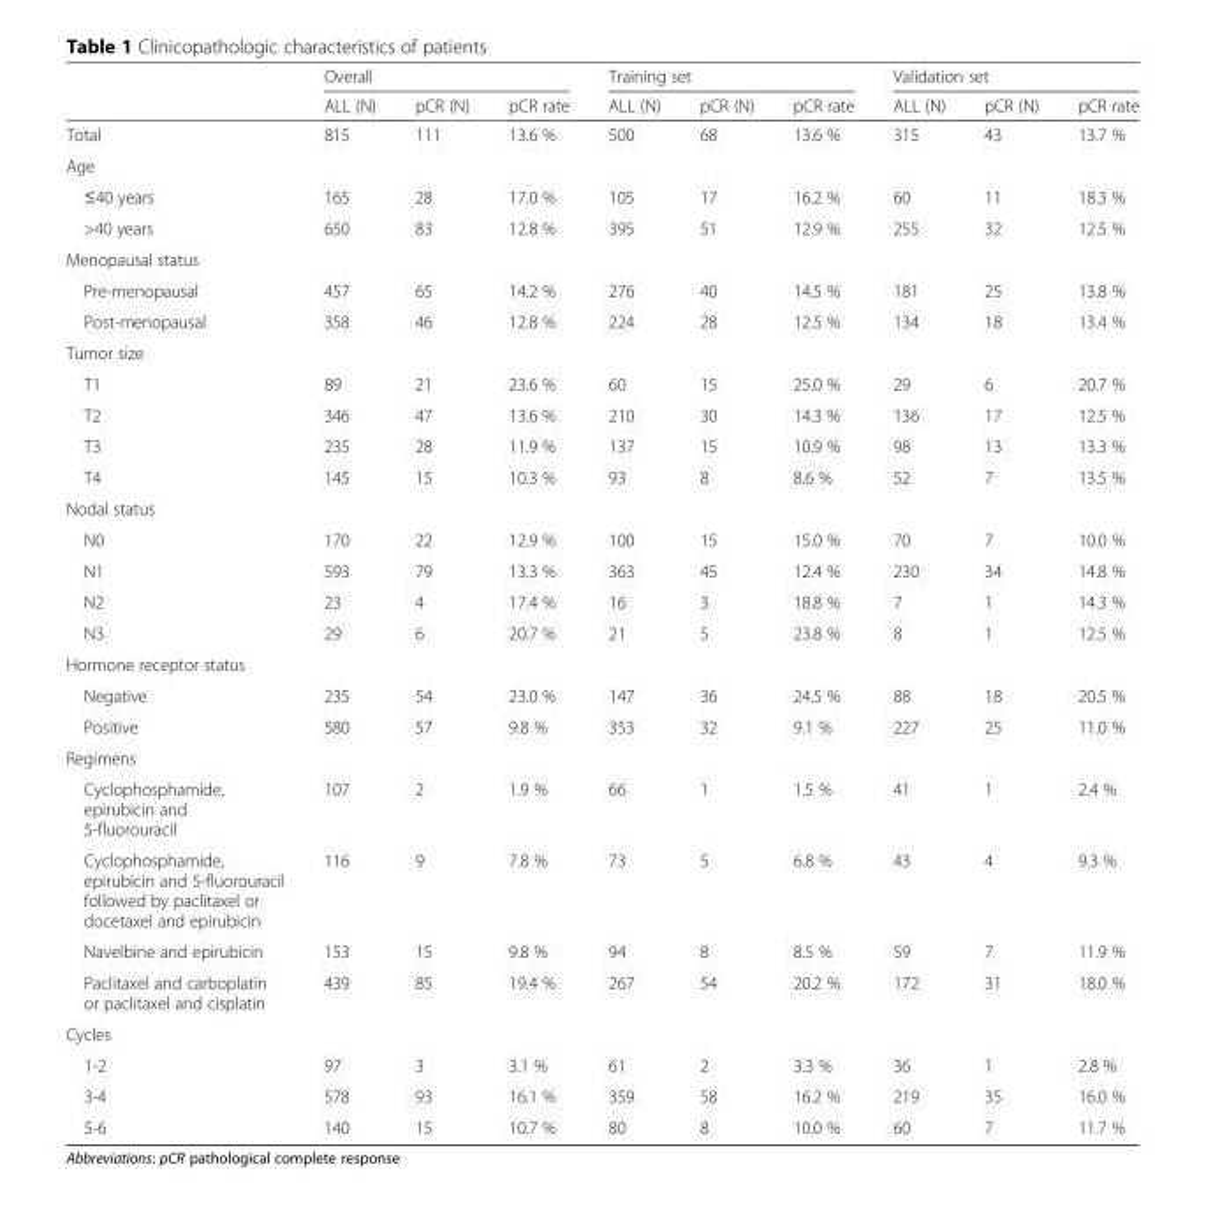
<table><thead><tr><td rowspan="2"></td><td colspan="3">Overall</td><td colspan="3">Training set</td><td colspan="3">Validation set</td></tr><tr><td>ALL (N)</td><td>pCR (N)</td><td>pCR rate</td><td>ALL (N)</td><td>pCR (N)</td><td>pCR rate</td><td>ALL (N)</td><td>pCR (N)</td><td>pCR rate</td></tr></thead><tbody><tr><td>Total</td><td>815</td><td>111</td><td>13.6 %</td><td>500</td><td>68</td><td>13.6 %</td><td>315</td><td>43</td><td>13.7 %</td></tr><tr><td colspan="10">Age</td></tr><tr><td>≤40 years</td><td>165</td><td>28</td><td>17.0 %</td><td>105</td><td>17</td><td>16.2 %</td><td>60</td><td>11</td><td>18.3 %</td></tr><tr><td>&gt;40 years</td><td>650</td><td>83</td><td>12.8 %</td><td>395</td><td>51</td><td>12.9 %</td><td>255</td><td>32</td><td>12.5 %</td></tr><tr><td colspan="10">Menopausal status</td></tr><tr><td>Pre-menopausal</td><td>457</td><td>65</td><td>14.2 %</td><td>276</td><td>40</td><td>14.5 %</td><td>181</td><td>25</td><td>13.8 %</td></tr><tr><td>Post-menopausal</td><td>358</td><td>46</td><td>12.8 %</td><td>224</td><td>28</td><td>12.5 %</td><td>134</td><td>18</td><td>13.4 %</td></tr><tr><td colspan="10">Tumor size</td></tr><tr><td>T1</td><td>89</td><td>21</td><td>23.6 %</td><td>60</td><td>15</td><td>25.0 %</td><td>29</td><td>6</td><td>20.7 %</td></tr><tr><td>T2</td><td>346</td><td>47</td><td>13.6 %</td><td>210</td><td>30</td><td>14.3 %</td><td>136</td><td>17</td><td>12.5 %</td></tr><tr><td>T3</td><td>235</td><td>28</td><td>11.9 %</td><td>137</td><td>15</td><td>10.9 %</td><td>98</td><td>13</td><td>13.3 %</td></tr><tr><td>T4</td><td>145</td><td>15</td><td>10.3 %</td><td>93</td><td>8</td><td>8.6 %</td><td>52</td><td>7</td><td>13.5 %</td></tr><tr><td colspan="10">Nodal status</td></tr><tr><td>N0</td><td>170</td><td>22</td><td>12.9 %</td><td>100</td><td>15</td><td>15.0 %</td><td>70</td><td>7</td><td>10.0 %</td></tr><tr><td>N1</td><td>593</td><td>79</td><td>13.3 %</td><td>363</td><td>45</td><td>12.4 %</td><td>230</td><td>34</td><td>14.8 %</td></tr><tr><td>N2</td><td>23</td><td>4</td><td>17.4 %</td><td>16</td><td>3</td><td>18.8 %</td><td>7</td><td>1</td><td>14.3 %</td></tr><tr><td>N3</td><td>29</td><td>6</td><td>20.7 %</td><td>21</td><td>5</td><td>23.8 %</td><td>8</td><td>1</td><td>12.5 %</td></tr><tr><td colspan="10">Hormone receptor status</td></tr><tr><td>Negative</td><td>235</td><td>54</td><td>23.0 %</td><td>147</td><td>36</td><td>24.5 %</td><td>88</td><td>18</td><td>20.5 %</td></tr><tr><td>Positive</td><td>580</td><td>57</td><td>9.8 %</td><td>353</td><td>32</td><td>9.1 %</td><td>227</td><td>25</td><td>11.0 %</td></tr><tr><td colspan="10">Regimens</td></tr><tr><td>Cyclophosphamide, epirubicin and 5-fluorouracil</td><td>107</td><td>2</td><td>1.9 %</td><td>66</td><td>1</td><td>1.5 %</td><td>41</td><td>1</td><td>2.4 %</td></tr><tr><td>Cyclophosphamide, epirubicin and 5-fluorouracil followed by paclitaxel or docetaxel and epirubicin</td><td>116</td><td>9</td><td>7.8 %</td><td>73</td><td>5</td><td>6.8 %</td><td>43</td><td>4</td><td>9.3 %</td></tr><tr><td>Navelbine and epirubicin</td><td>153</td><td>15</td><td>9.8 %</td><td>94</td><td>8</td><td>8.5 %</td><td>59</td><td>7</td><td>11.9 %</td></tr><tr><td>Paclitaxel and carboplatin or paclitaxel and cisplatin</td><td>439</td><td>85</td><td>19.4 %</td><td>267</td><td>54</td><td>20.2 %</td><td>172</td><td>31</td><td>18.0 %</td></tr><tr><td colspan="10">Cycles</td></tr><tr><td>1-2</td><td>97</td><td>3</td><td>3.1 %</td><td>61</td><td>2</td><td>3.3 %</td><td>36</td><td>1</td><td>2.8 %</td></tr><tr><td>3-4</td><td>578</td><td>93</td><td>16.1 %</td><td>359</td><td>58</td><td>16.2 %</td><td>219</td><td>35</td><td>16.0 %</td></tr><tr><td>5-6</td><td>140</td><td>15</td><td>10.7 %</td><td>80</td><td>8</td><td>10.0 %</td><td>60</td><td>7</td><td>11.7 %</td></tr></tbody></table>